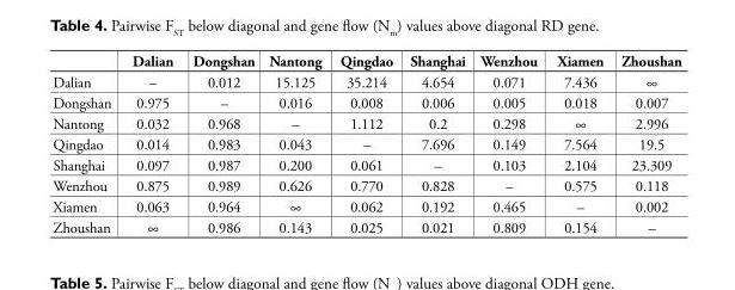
<table><thead><tr><td></td><td>Dalian</td><td>Dongshan</td><td>Nantong</td><td>Qingdao</td><td>Shanghai</td><td>Wenzhou</td><td>Xiamen</td><td>Zhoushan</td></tr></thead><tbody><tr><td>Dalian</td><td>–</td><td>0.012</td><td>15.125</td><td>35.214</td><td>4.654</td><td>0.071</td><td>7.436</td><td>∞</td></tr><tr><td>Dongshan</td><td>0.975</td><td>–</td><td>0.016</td><td>0.008</td><td>0.006</td><td>0.005</td><td>0.018</td><td>0.007</td></tr><tr><td>Nantong</td><td>0.032</td><td>0.968</td><td>–</td><td>1.112</td><td>0.2</td><td>0.298</td><td>∞</td><td>2.996</td></tr><tr><td>Qingdao</td><td>0.014</td><td>0.983</td><td>0.043</td><td>–</td><td>7.696</td><td>0.149</td><td>7.564</td><td>19.5</td></tr><tr><td>Shanghai</td><td>0.097</td><td>0.987</td><td>0.200</td><td>0.061</td><td>–</td><td>0.103</td><td>2.104</td><td>23.309</td></tr><tr><td>Wenzhou</td><td>0.875</td><td>0.989</td><td>0.626</td><td>0.770</td><td>0.828</td><td>–</td><td>0.575</td><td>0.118</td></tr><tr><td>Xiamen</td><td>0.063</td><td>0.964</td><td>∞</td><td>0.062</td><td>0.192</td><td>0.465</td><td>–</td><td>0.002</td></tr><tr><td>Zhoushan</td><td>∞</td><td>0.986</td><td>0.143</td><td>0.025</td><td>0.021</td><td>0.809</td><td>0.154</td><td>–</td></tr></tbody></table>